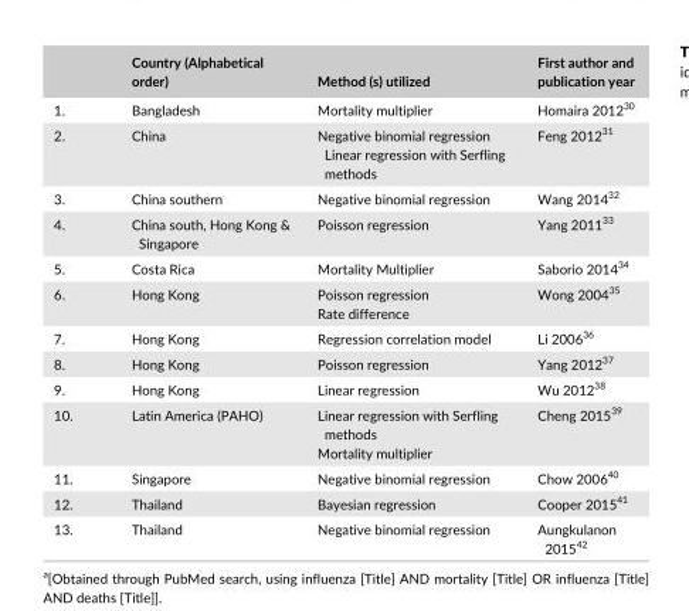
<table><thead><tr><td></td><td>Country (Alphabetical order)</td><td>Method (s) utilized</td><td>First author and publication year</td></tr></thead><tbody><tr><td>1.</td><td>Bangladesh</td><td>Mortality multiplier</td><td>Homaira 2012<sup>30</sup></td></tr><tr><td>2.</td><td>China</td><td>Negative binomial regression Linear regression with Serfling methods</td><td>Feng 2012<sup>31</sup></td></tr><tr><td>3.</td><td>China southern</td><td>Negative binomial regression</td><td>Wang 2014<sup>32</sup></td></tr><tr><td>4.</td><td>China south, Hong Kong &amp; Singapore</td><td>Poisson regression</td><td>Yang 2011<sup>33</sup></td></tr><tr><td>5.</td><td>Costa Rica</td><td>Mortality Multiplier</td><td>Saborio 2014<sup>34</sup></td></tr><tr><td>6.</td><td>Hong Kong</td><td>Poisson regression Rate difference</td><td>Wong 2004<sup>35</sup></td></tr><tr><td>7.</td><td>Hong Kong</td><td>Regression correlation model</td><td>Li 2006<sup>36</sup></td></tr><tr><td>8.</td><td>Hong Kong</td><td>Poisson regression</td><td>Yang 2012<sup>37</sup></td></tr><tr><td>9.</td><td>Hong Kong</td><td>Linear regression</td><td>Wu 2012<sup>38</sup></td></tr><tr><td>10.</td><td>Latin America (PAHO)</td><td>Linear regression with Serfling methods Mortality multiplier</td><td>Cheng 2015<sup>39</sup></td></tr><tr><td>11.</td><td>Singapore</td><td>Negative binomial regression</td><td>Chow 2006<sup>40</sup></td></tr><tr><td>12.</td><td>Thailand</td><td>Bayesian regression</td><td>Cooper 2015<sup>41</sup></td></tr><tr><td>13.</td><td>Thailand</td><td>Negative binomial regression</td><td>Aungkulanon 2015<sup>42</sup></td></tr></tbody></table>